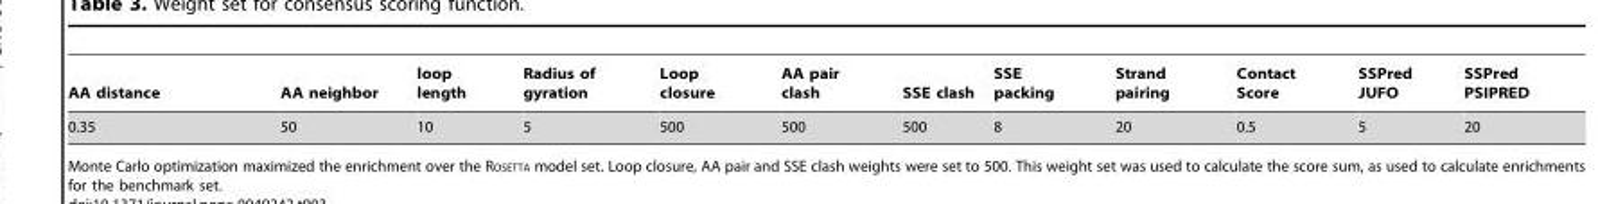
<table><thead><tr><td>AA distance</td><td>AA neighbor</td><td>loop length</td><td>Radius of gyration</td><td>Loop closure</td><td>AA pair clash</td><td>SSE clash</td><td>SSE packing</td><td>Strand pairing</td><td>Contact Score</td><td>SSPred JUFO</td><td>SSPred PSIPRED</td></tr></thead><tbody><tr><td>0.35</td><td>50</td><td>10</td><td>5</td><td>500</td><td>500</td><td>500</td><td>8</td><td>20</td><td>0.5</td><td>5</td><td>20</td></tr></tbody></table>